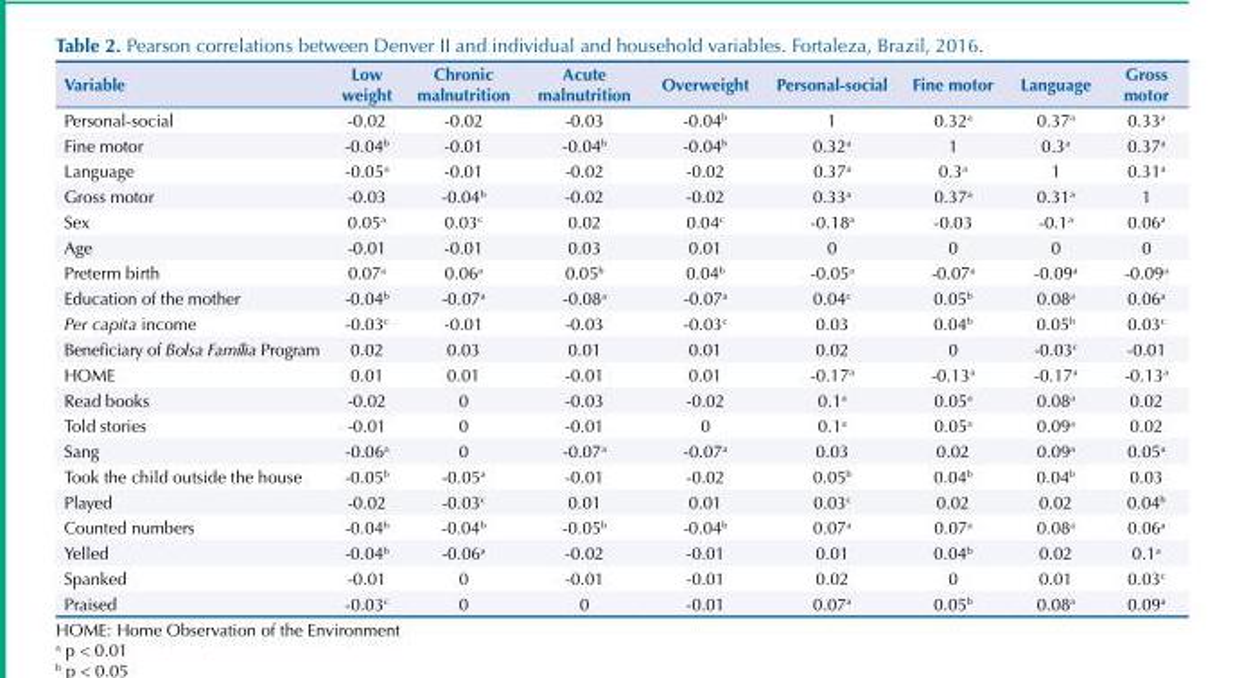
<table><thead><tr><td>Variable</td><td>Low weight</td><td>Chronic malnutrition</td><td>Acute malnutrition</td><td>Overweight</td><td>Personal-social</td><td>Fine motor</td><td>Language</td><td>Gross motor</td></tr></thead><tbody><tr><td>Personal-social</td><td>-0.02</td><td>-0.02</td><td>-0.03</td><td>-0.04<sup>b</sup></td><td>1</td><td>0.32<sup>a</sup></td><td>0.37<sup>a</sup></td><td>0.33<sup>a</sup></td></tr><tr><td>Fine motor</td><td>-0.04<sup>b</sup></td><td>-0.01</td><td>-0.04<sup>b</sup></td><td>-0.04<sup>b</sup></td><td>0.32<sup>a</sup></td><td>1</td><td>0.3<sup>a</sup></td><td>0.37<sup>a</sup></td></tr><tr><td>Language</td><td>-0.05<sup>a</sup></td><td>-0.01</td><td>-0.02</td><td>-0.02</td><td>0.37<sup>a</sup></td><td>0.3<sup>a</sup></td><td>1</td><td>0.31<sup>a</sup></td></tr><tr><td>Gross motor</td><td>-0.03</td><td>-0.04<sup>b</sup></td><td>-0.02</td><td>-0.02</td><td>0.33<sup>a</sup></td><td>0.37<sup>a</sup></td><td>0.31<sup>a</sup></td><td>1</td></tr><tr><td>Sex</td><td>0.05<sup>a</sup></td><td>0.03<sup>c</sup></td><td>0.02</td><td>0.04<sup>c</sup></td><td>-0.18<sup>a</sup></td><td>-0.03</td><td>-0.1<sup>a</sup></td><td>0.06<sup>a</sup></td></tr><tr><td>Age</td><td>-0.01</td><td>-0.01</td><td>0.03</td><td>0.01</td><td>0</td><td>0</td><td>0</td><td>0</td></tr><tr><td>Preterm birth</td><td>0.07<sup>a</sup></td><td>0.06<sup>a</sup></td><td>0.05<sup>b</sup></td><td>0.04<sup>b</sup></td><td>-0.05<sup>a</sup></td><td>-0.07<sup>a</sup></td><td>-0.09<sup>a</sup></td><td>-0.09<sup>a</sup></td></tr><tr><td>Education of the mother</td><td>-0.04<sup>b</sup></td><td>-0.07<sup>a</sup></td><td>-0.08<sup>a</sup></td><td>-0.07<sup>a</sup></td><td>0.04<sup>c</sup></td><td>0.05<sup>b</sup></td><td>0.08<sup>a</sup></td><td>0.06<sup>a</sup></td></tr><tr><td>Per capita income</td><td>-0.03<sup>c</sup></td><td>-0.01</td><td>-0.03</td><td>-0.03<sup>c</sup></td><td>0.03</td><td>0.04<sup>b</sup></td><td>0.05<sup>b</sup></td><td>0.03<sup>c</sup></td></tr><tr><td>Beneficiary of Bolsa Família Program</td><td>0.02</td><td>0.03</td><td>0.01</td><td>0.01</td><td>0.02</td><td>0</td><td>-0.03<sup>c</sup></td><td>-0.01</td></tr><tr><td>HOME</td><td>0.01</td><td>0.01</td><td>-0.01</td><td>0.01</td><td>-0.17<sup>a</sup></td><td>-0.13<sup>a</sup></td><td>-0.17<sup>a</sup></td><td>-0.13<sup>a</sup></td></tr><tr><td>Read books</td><td>-0.02</td><td>0</td><td>-0.03</td><td>-0.02</td><td>0.1<sup>a</sup></td><td>0.05<sup>a</sup></td><td>0.08<sup>a</sup></td><td>0.02</td></tr><tr><td>Told stories</td><td>-0.01</td><td>0</td><td>-0.01</td><td>0</td><td>0.1<sup>a</sup></td><td>0.05<sup>a</sup></td><td>0.09<sup>a</sup></td><td>0.02</td></tr><tr><td>Sang</td><td>-0.06<sup>a</sup></td><td>0</td><td>-0.07<sup>a</sup></td><td>-0.07<sup>a</sup></td><td>0.03</td><td>0.02</td><td>0.09<sup>a</sup></td><td>0.05<sup>a</sup></td></tr><tr><td>Took the child outside the house</td><td>-0.05<sup>b</sup></td><td>-0.05<sup>a</sup></td><td>-0.01</td><td>-0.02</td><td>0.05<sup>b</sup></td><td>0.04<sup>b</sup></td><td>0.04<sup>b</sup></td><td>0.03</td></tr><tr><td>Played</td><td>-0.02</td><td>-0.03<sup>c</sup></td><td>0.01</td><td>0.01</td><td>0.03<sup>c</sup></td><td>0.02</td><td>0.02</td><td>0.04<sup>b</sup></td></tr><tr><td>Counted numbers</td><td>-0.04<sup>b</sup></td><td>-0.04<sup>b</sup></td><td>-0.05<sup>b</sup></td><td>-0.04<sup>b</sup></td><td>0.07<sup>a</sup></td><td>0.07<sup>a</sup></td><td>0.08<sup>a</sup></td><td>0.06<sup>a</sup></td></tr><tr><td>Yelled</td><td>-0.04<sup>b</sup></td><td>-0.06<sup>a</sup></td><td>-0.02</td><td>-0.01</td><td>0.01</td><td>0.04<sup>b</sup></td><td>0.02</td><td>0.1<sup>a</sup></td></tr><tr><td>Spanked</td><td>-0.01</td><td>0</td><td>-0.01</td><td>-0.01</td><td>0.02</td><td>0</td><td>0.01</td><td>0.03<sup>c</sup></td></tr><tr><td>Praised</td><td>-0.03<sup>c</sup></td><td>0</td><td>0</td><td>-0.01</td><td>0.07<sup>a</sup></td><td>0.05<sup>b</sup></td><td>0.08<sup>a</sup></td><td>0.09<sup>a</sup></td></tr></tbody></table>